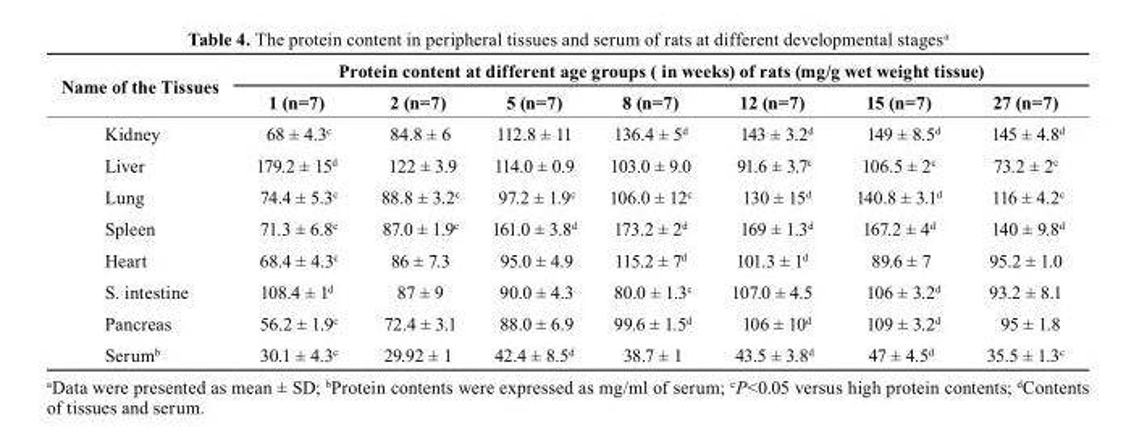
<table><thead><tr><td rowspan="2">Name of the Tissues</td><td colspan="7">Protein content at different age groups ( in weeks) of rats (mg/g wet weight tissue)</td></tr><tr><td>1 (n=7)</td><td>2 (n=7)</td><td>5 (n=7)</td><td>8 (n=7)</td><td>12 (n=7)</td><td>15 (n=7)</td><td>27 (n=7)</td></tr></thead><tbody><tr><td>Kidney</td><td>68 ± 4.3<sup>c</sup></td><td>84.8 ± 6</td><td>112.8 ± 11</td><td>136.4 ± 5<sup>d</sup></td><td>143 ± 3.2<sup>d</sup></td><td>149 ± 8.5<sup>d</sup></td><td>145 ± 4.8<sup>d</sup></td></tr><tr><td>Liver</td><td>179.2 ± 15<sup>d</sup></td><td>122 ± 3.9</td><td>114.0 ± 0.9</td><td>103.0 ± 9.0</td><td>91.6 ± 3.7<sup>c</sup></td><td>106.5 ± 2<sup>c</sup></td><td>73.2 ± 2<sup>c</sup></td></tr><tr><td>Lung</td><td>74.4 ± 5.3<sup>c</sup></td><td>88.8 ± 3.2<sup>c</sup></td><td>97.2 ± 1.9<sup>c</sup></td><td>106.0 ± 12<sup>c</sup></td><td>130 ± 15<sup>d</sup></td><td>140.8 ± 3.1<sup>d</sup></td><td>116 ± 4.2<sup>c</sup></td></tr><tr><td>Spleen</td><td>71.3 ± 6.8<sup>c</sup></td><td>87.0 ± 1.9<sup>c</sup></td><td>161.0 ± 3.8<sup>d</sup></td><td>173.2 ± 2<sup>d</sup></td><td>169 ± 1.3<sup>d</sup></td><td>167.2 ± 4<sup>d</sup></td><td>140 ± 9.8<sup>d</sup></td></tr><tr><td>Heart</td><td>68.4 ± 4.3<sup>c</sup></td><td>86 ± 7.3</td><td>95.0 ± 4.9</td><td>115.2 ± 7<sup>d</sup></td><td>101.3 ± 1<sup>d</sup></td><td>89.6 ± 7</td><td>95.2 ± 1.0</td></tr><tr><td>S. intestine</td><td>108.4 ± 1<sup>d</sup></td><td>87 ± 9</td><td>90.0 ± 4.3</td><td>80.0 ± 1.3<sup>c</sup></td><td>107.0 ± 4.5</td><td>106 ± 3.2<sup>d</sup></td><td>93.2 ± 8.1</td></tr><tr><td>Pancreas</td><td>56.2 ± 1.9<sup>c</sup></td><td>72.4 ± 3.1</td><td>88.0 ± 6.9</td><td>99.6 ± 1.5<sup>d</sup></td><td>106 ± 10d</td><td>109 ± 3.2<sup>d</sup></td><td>95 ± 1.8</td></tr><tr><td>Serum<sup>b</sup></td><td>30.1 ± 4.3<sup>c</sup></td><td>29.92 ± 1</td><td>42.4 ± 8.5<sup>d</sup></td><td>38.7 ± 1</td><td>43.5 ± 3.8<sup>d</sup></td><td>47 ± 4.5<sup>d</sup></td><td>35.5 ± 1.3<sup>c</sup></td></tr></tbody></table>